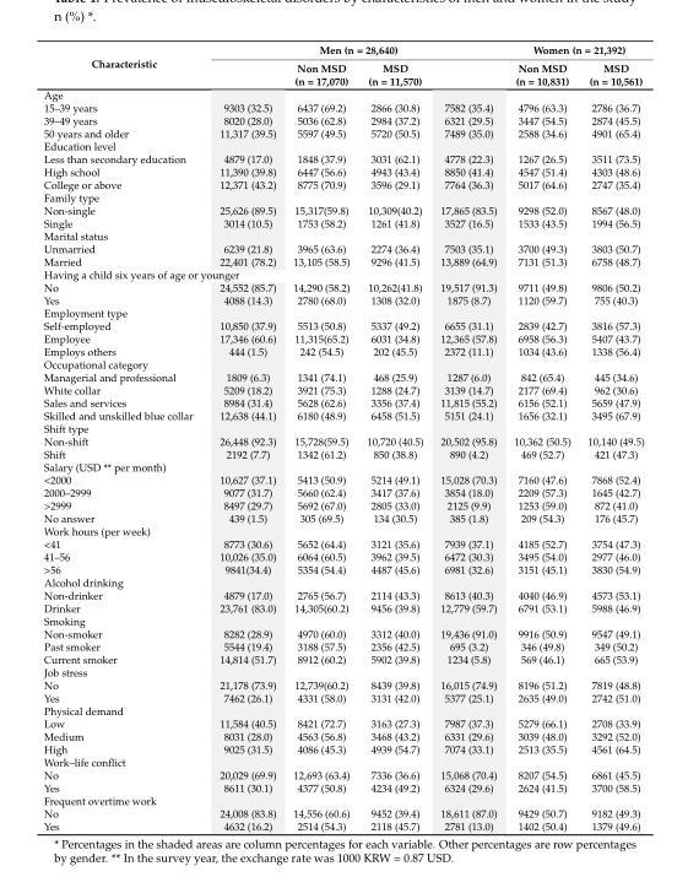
<table><thead><tr><td rowspan="2">Characteristic</td><td rowspan="2"></td><td colspan="2">Men (n = 28,640)</td><td rowspan="2"></td><td colspan="2">Women (n = 21,392)</td></tr><tr><td>Non MSD (n = 17,070)</td><td>MSD (n = 11,570)</td><td>Non MSD (n = 10,831)</td><td>MSD (n = 10,561)</td></tr></thead><tbody><tr><td colspan="7">Age</td></tr><tr><td>15–39 years</td><td>9303 (32.5)</td><td>6437 (69.2)</td><td>2866 (30.8)</td><td>7582 (35.4)</td><td>4796 (63.3)</td><td>2786 (36.7)</td></tr><tr><td>39–49 years</td><td>8020 (28.0)</td><td>5036 (62.8)</td><td>2984 (37.2)</td><td>6321 (29.5)</td><td>3447 (54.5)</td><td>2874 (45.5)</td></tr><tr><td>50 years and older</td><td>11,317 (39.5)</td><td>5597 (49.5)</td><td>5720 (50.5)</td><td>7489 (35.0)</td><td>2588 (34.6)</td><td>4901 (65.4)</td></tr><tr><td colspan="7">Education level</td></tr><tr><td>Less than secondary education</td><td>4879 (17.0)</td><td>1848 (37.9)</td><td>3031 (62.1)</td><td>4778 (22.3)</td><td>1267 (26.5)</td><td>3511 (73.5)</td></tr><tr><td>High school</td><td>11,390 (39.8)</td><td>6447 (56.6)</td><td>4943 (43.4)</td><td>8850 (41.4)</td><td>4547 (51.4)</td><td>4303 (48.6)</td></tr><tr><td>College or above</td><td>12,371 (43.2)</td><td>8775 (70.9)</td><td>3596 (29.1)</td><td>7764 (36.3)</td><td>5017 (64.6)</td><td>2747 (35.4)</td></tr><tr><td colspan="7">Family type</td></tr><tr><td>Non-single</td><td>25,626 (89.5)</td><td>15,317(59.8)</td><td>10,309(40.2)</td><td>17,865 (83.5)</td><td>9298 (52.0)</td><td>8567 (48.0)</td></tr><tr><td>Single</td><td>3014 (10.5)</td><td>1753 (58.2)</td><td>1261 (41.8)</td><td>3527 (16.5)</td><td>1533 (43.5)</td><td>1994 (56.5)</td></tr><tr><td colspan="7">Marital status</td></tr><tr><td>Unmarried</td><td>6239 (21.8)</td><td>3965 (63.6)</td><td>2274 (36.4)</td><td>7503 (35.1)</td><td>3700 (49.3)</td><td>3803 (50.7)</td></tr><tr><td>Married</td><td>22,401 (78.2)</td><td>13,105 (58.5)</td><td>9296 (41.5)</td><td>13,889 (64.9)</td><td>7131 (51.3)</td><td>6758 (48.7)</td></tr><tr><td colspan="7">Having a child six years of age or younger</td></tr><tr><td>No</td><td>24,552 (85.7)</td><td>14,290 (58.2)</td><td>10,262(41.8)</td><td>19,517 (91.3)</td><td>9711 (49.8)</td><td>9806 (50.2)</td></tr><tr><td>Yes</td><td>4088 (14.3)</td><td>2780 (68.0)</td><td>1308 (32.0)</td><td>1875 (8.7)</td><td>1120 (59.7)</td><td>755 (40.3)</td></tr><tr><td colspan="7">Employment type</td></tr><tr><td>Self-employed</td><td>10,850 (37.9)</td><td>5513 (50.8)</td><td>5337 (49.2)</td><td>6655 (31.1)</td><td>2839 (42.7)</td><td>3816 (57.3)</td></tr><tr><td>Employee</td><td>17,346 (60.6)</td><td>11,315(65.2)</td><td>6031 (34.8)</td><td>12,365 (57.8)</td><td>6958 (56.3)</td><td>5407 (43.7)</td></tr><tr><td>Employs others</td><td>444 (1.5)</td><td>242 (54.5)</td><td>202 (45.5)</td><td>2372 (11.1)</td><td>1034 (43.6)</td><td>1338 (56.4)</td></tr><tr><td colspan="7">Occupational category</td></tr><tr><td>Managerial and professional</td><td>1809 (6.3)</td><td>1341 (74.1)</td><td>468 (25.9)</td><td>1287 (6.0)</td><td>842 (65.4)</td><td>445 (34.6)</td></tr><tr><td>White collar</td><td>5209 (18.2)</td><td>3921 (75.3)</td><td>1288 (24.7)</td><td>3139 (14.7)</td><td>2177 (69.4)</td><td>962 (30.6)</td></tr><tr><td>Sales and services</td><td>8984 (31.4)</td><td>5628 (62.6)</td><td>3356 (37.4)</td><td>11,815 (55.2)</td><td>6156 (52.1)</td><td>5659 (47.9)</td></tr><tr><td>Skilled and unskilled blue collar</td><td>12,638 (44.1)</td><td>6180 (48.9)</td><td>6458 (51.5)</td><td>5151 (24.1)</td><td>1656 (32.1)</td><td>3495 (67.9)</td></tr><tr><td colspan="7">Shift type</td></tr><tr><td>Non-shift</td><td>26,448 (92.3)</td><td>15,728(59.5)</td><td>10,720 (40.5)</td><td>20,502 (95.8)</td><td>10,362 (50.5)</td><td>10,140 (49.5)</td></tr><tr><td>Shift</td><td>2192 (7.7)</td><td>1342 (61.2)</td><td>850 (38.8)</td><td>890 (4.2)</td><td>469 (52.7)</td><td>421 (47.3)</td></tr><tr><td colspan="7">Salary (USD ** per month)</td></tr><tr><td>&lt;2000</td><td>10,627 (37.1)</td><td>5413 (50.9)</td><td>5214 (49.1)</td><td>15,028 (70.3)</td><td>7160 (47.6)</td><td>7868 (52.4)</td></tr><tr><td>2000–2999</td><td>9077 (31.7)</td><td>5660 (62.4)</td><td>3417 (37.6)</td><td>3854 (18.0)</td><td>2209 (57.3)</td><td>1645 (42.7)</td></tr><tr><td>&gt;2999</td><td>8497 (29.7)</td><td>5692 (67.0)</td><td>2805 (33.0)</td><td>2125 (9.9)</td><td>1253 (59.0)</td><td>872 (41.0)</td></tr><tr><td>No answer</td><td>439 (1.5)</td><td>305 (69.5)</td><td>134 (30.5)</td><td>385 (1.8)</td><td>209 (54.3)</td><td>176 (45.7)</td></tr><tr><td colspan="7">Work hours (per week)</td></tr><tr><td>&lt;41</td><td>8773 (30.6)</td><td>5652 (64.4)</td><td>3121 (35.6)</td><td>7939 (37.1)</td><td>4185 (52.7)</td><td>3754 (47.3)</td></tr><tr><td>41–56</td><td>10,026 (35.0)</td><td>6064 (60.5)</td><td>3962 (39.5)</td><td>6472 (30.3)</td><td>3495 (54.0)</td><td>2977 (46.0)</td></tr><tr><td>&gt;56</td><td>9841(34.4)</td><td>5354 (54.4)</td><td>4487 (45.6)</td><td>6981 (32.6)</td><td>3151 (45.1)</td><td>3830 (54.9)</td></tr><tr><td colspan="7">Alcohol drinking</td></tr><tr><td>Non-drinker</td><td>4879 (17.0)</td><td>2765 (56.7)</td><td>2114 (43.3)</td><td>8613 (40.3)</td><td>4040 (46.9)</td><td>4573 (53.1)</td></tr><tr><td>Drinker</td><td>23,761 (83.0)</td><td>14,305(60.2)</td><td>9456 (39.8)</td><td>12,779 (59.7)</td><td>6791 (53.1)</td><td>5988 (46.9)</td></tr><tr><td colspan="7">Smoking</td></tr><tr><td>Non-smoker</td><td>8282 (28.9)</td><td>4970 (60.0)</td><td>3312 (40.0)</td><td>19,436 (91.0)</td><td>9916 (50.9)</td><td>9547 (49.1)</td></tr><tr><td>Past smoker</td><td>5544 (19.4)</td><td>3188 (57.5)</td><td>2356 (42.5)</td><td>695 (3.2)</td><td>346 (49.8)</td><td>349 (50.2)</td></tr><tr><td>Current smoker</td><td>14,814 (51.7)</td><td>8912 (60.2)</td><td>5902 (39.8)</td><td>1234 (5.8)</td><td>569 (46.1)</td><td>665 (53.9)</td></tr><tr><td colspan="7">Job stress</td></tr><tr><td>No</td><td>21,178 (73.9)</td><td>12,739(60.2)</td><td>8439 (39.8)</td><td>16,015 (74.9)</td><td>8196 (51.2)</td><td>7819 (48.8)</td></tr><tr><td>Yes</td><td>7462 (26.1)</td><td>4331 (58.0)</td><td>3131 (42.0)</td><td>5377 (25.1)</td><td>2635 (49.0)</td><td>2742 (51.0)</td></tr><tr><td colspan="7">Physical demand</td></tr><tr><td>Low</td><td>11,584 (40.5)</td><td>8421 (72.7)</td><td>3163 (27.3)</td><td>7987 (37.3)</td><td>5279 (66.1)</td><td>2708 (33.9)</td></tr><tr><td>Medium</td><td>8031 (28.0)</td><td>4563 (56.8)</td><td>3468 (43.2)</td><td>6331 (29.6)</td><td>3039 (48.0)</td><td>3292 (52.0)</td></tr><tr><td>High</td><td>9025 (31.5)</td><td>4086 (45.3)</td><td>4939 (54.7)</td><td>7074 (33.1)</td><td>2513 (35.5)</td><td>4561 (64.5)</td></tr><tr><td colspan="7">Work–life conflict</td></tr><tr><td>No</td><td>20,029 (69.9)</td><td>12,693 (63.4)</td><td>7336 (36.6)</td><td>15,068 (70.4)</td><td>8207 (54.5)</td><td>6861 (45.5)</td></tr><tr><td>Yes</td><td>8611 (30.1)</td><td>4377 (50.8)</td><td>4234 (49.2)</td><td>6324 (29.6)</td><td>2624 (41.5)</td><td>3700 (58.5)</td></tr><tr><td colspan="7">Frequent overtime work</td></tr><tr><td>No</td><td>24,008 (83.8)</td><td>14,556 (60.6)</td><td>9452 (39.4)</td><td>18,611 (87.0)</td><td>9429 (50.7)</td><td>9182 (49.3)</td></tr><tr><td>Yes</td><td>4632 (16.2)</td><td>2514 (54.3)</td><td>2118 (45.7)</td><td>2781 (13.0)</td><td>1402 (50.4)</td><td>1379 (49.6)</td></tr></tbody></table>